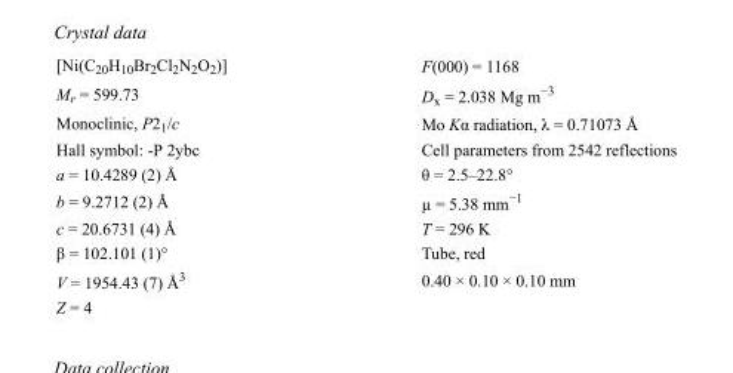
<table><tbody><tr><td>[Ni(C<sub>20</sub>H<sub>10</sub>Br<sub>2</sub>Cl<sub>2</sub>N<sub>2</sub>O<sub>2</sub>)]</td><td>F(000) = 1168</td></tr><tr><td>M<sub>r</sub> = 599.73</td><td>D<sub>x</sub> = 2.038 Mg m<sup>−3</sup></td></tr><tr><td>Monoclinic, P2<sub>1</sub>/c</td><td>Mo Kα radiation, λ = 0.71073 Å</td></tr><tr><td>Hall symbol: -P 2ybc</td><td>Cell parameters from 2542 reflections</td></tr><tr><td>a = 10.4289 (2) Å</td><td>θ = 2.5–22.8°</td></tr><tr><td>b = 9.2712 (2) Å</td><td>µ = 5.38 mm<sup>−1</sup></td></tr><tr><td>c = 20.6731 (4) Å</td><td>T = 296 K</td></tr><tr><td>β = 102.101 (1)°</td><td>Tube, red</td></tr><tr><td>V = 1954.43 (7) Å<sup>3</sup></td><td>0.40 × 0.10 × 0.10 mm</td></tr><tr><td>Z = 4</td><td></td></tr></tbody></table>